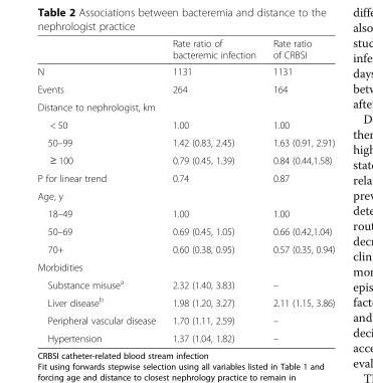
<table><thead><tr><td></td><td>Rate ratio of bacteremic infection</td><td>Rate ratio of CRBSI</td></tr></thead><tbody><tr><td>N</td><td>1131</td><td>1131</td></tr><tr><td>Events</td><td>264</td><td>164</td></tr><tr><td colspan="3">Distance to nephrologist, km</td></tr><tr><td>&lt; 50</td><td>1.00</td><td>1.00</td></tr><tr><td>50–99</td><td>1.42 (0.83, 2.45)</td><td>1.63 (0.91, 2.91)</td></tr><tr><td>≥ 100</td><td>0.79 (0.45, 1.39)</td><td>0.84 (0.44,1.58)</td></tr><tr><td>P for linear trend</td><td>0.74</td><td>0.87</td></tr><tr><td colspan="3">Age, y</td></tr><tr><td>18–49</td><td>1.00</td><td>1.00</td></tr><tr><td>50–69</td><td>0.69 (0.45, 1.05)</td><td>0.66 (0.42,1.04)</td></tr><tr><td>70+</td><td>0.60 (0.38, 0.95)</td><td>0.57 (0.35, 0.94)</td></tr><tr><td colspan="3">Morbidities</td></tr><tr><td>Substance misuse<sup>a</sup></td><td>2.32 (1.40, 3.83)</td><td>–</td></tr><tr><td>Liver disease<sup>b</sup></td><td>1.98 (1.20, 3.27)</td><td>2.11 (1.15, 3.86)</td></tr><tr><td>Peripheral vascular disease</td><td>1.70 (1.11, 2.59)</td><td>–</td></tr><tr><td>Hypertension</td><td>1.37 (1.04, 1.82)</td><td>–</td></tr></tbody></table>